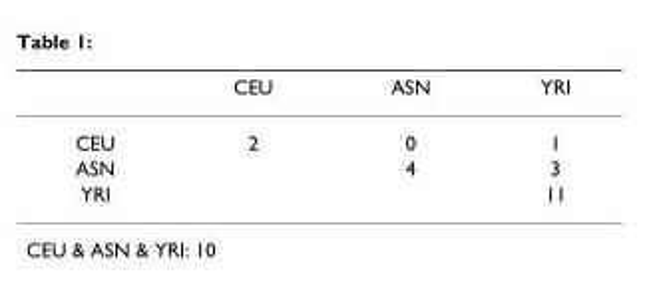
<table><thead><tr><td></td><td>CEU</td><td>ASN</td><td>YRI</td></tr></thead><tbody><tr><td>CEU</td><td>2</td><td>0</td><td>1</td></tr><tr><td>ASN</td><td></td><td>4</td><td>3</td></tr><tr><td>YRI</td><td></td><td></td><td>11</td></tr></tbody></table>